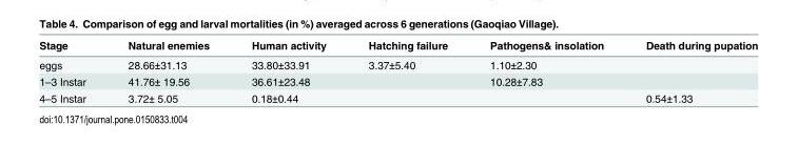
<table><thead><tr><td>Stage</td><td>Natural enemies</td><td>Human activity</td><td>Hatching failure</td><td>Pathogens&amp; insolation</td><td>Death during pupation</td></tr></thead><tbody><tr><td>eggs</td><td>28.66±31.13</td><td>33.80±33.91</td><td>3.37±5.40</td><td>1.10±2.30</td><td></td></tr><tr><td>1–3 Instar</td><td>41.76± 19.56</td><td>36.61±23.48</td><td></td><td>10.28±7.83</td><td></td></tr><tr><td>4–5 Instar</td><td>3.72± 5.05</td><td>0.18±0.44</td><td></td><td></td><td>0.54±1.33</td></tr></tbody></table>